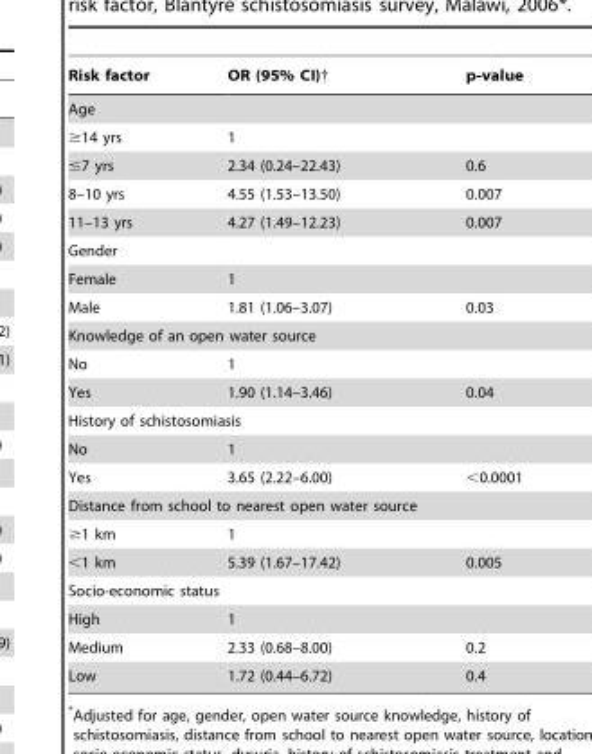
<table><thead><tr><td>Risk factor</td><td>OR (95% CI)†</td><td>p-value</td></tr></thead><tbody><tr><td colspan="3">Age</td></tr><tr><td>≥14 yrs</td><td>1</td><td></td></tr><tr><td>≤7 yrs</td><td>2.34 (0.24–22.43)</td><td>0.6</td></tr><tr><td>8–10 yrs</td><td>4.55 (1.53–13.50)</td><td>0.007</td></tr><tr><td>11–13 yrs</td><td>4.27 (1.49–12.23)</td><td>0.007</td></tr><tr><td colspan="3">Gender</td></tr><tr><td>Female</td><td>1</td><td></td></tr><tr><td>Male</td><td>1.81 (1.06–3.07)</td><td>0.03</td></tr><tr><td colspan="3">Knowledge of an open water source</td></tr><tr><td>No</td><td>1</td><td></td></tr><tr><td>Yes</td><td>1.90 (1.14–3.46)</td><td>0.04</td></tr><tr><td colspan="3">History of schistosomiasis</td></tr><tr><td>No</td><td>1</td><td></td></tr><tr><td>Yes</td><td>3.65 (2.22–6.00)</td><td>&lt;0.0001</td></tr><tr><td colspan="3">Distance from school to nearest open water source</td></tr><tr><td>≥1 km</td><td>1</td><td></td></tr><tr><td>&lt;1 km</td><td>5.39 (1.67–17.42)</td><td>0.005</td></tr><tr><td colspan="3">Socio-economic status</td></tr><tr><td>High</td><td>1</td><td></td></tr><tr><td>Medium</td><td>2.33 (0.68–8.00)</td><td>0.2</td></tr><tr><td>Low</td><td>1.72 (0.44–6.72)</td><td>0.4</td></tr></tbody></table>